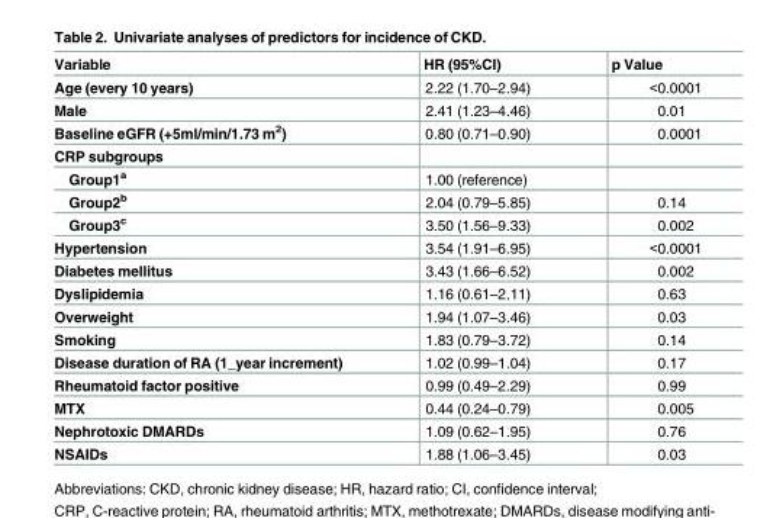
<table><thead><tr><td>Variable</td><td>HR (95%CI)</td><td>p Value</td></tr></thead><tbody><tr><td>Age (every 10 years)</td><td>2.22 (1.70–2.94)</td><td>&lt;0.0001</td></tr><tr><td>Male</td><td>2.41 (1.23–4.46)</td><td>0.01</td></tr><tr><td>Baseline eGFR (+5ml/min/1.73 m<sup>2</sup>)</td><td>0.80 (0.71–0.90)</td><td>0.0001</td></tr><tr><td colspan="3">CRP subgroups</td></tr><tr><td>Group1<sup>a</sup></td><td>1.00 (reference)</td><td></td></tr><tr><td>Group2<sup>b</sup></td><td>2.04 (0.79–5.85)</td><td>0.14</td></tr><tr><td>Group3<sup>c</sup></td><td>3.50 (1.56–9.33)</td><td>0.002</td></tr><tr><td>Hypertension</td><td>3.54 (1.91–6.95)</td><td>&lt;0.0001</td></tr><tr><td>Diabetes mellitus</td><td>3.43 (1.66–6.52)</td><td>0.002</td></tr><tr><td>Dyslipidemia</td><td>1.16 (0.61–2.11)</td><td>0.63</td></tr><tr><td>Overweight</td><td>1.94 (1.07–3.46)</td><td>0.03</td></tr><tr><td>Smoking</td><td>1.83 (0.79–3.72)</td><td>0.14</td></tr><tr><td>Disease duration of RA (1_year increment)</td><td>1.02 (0.99–1.04)</td><td>0.17</td></tr><tr><td>Rheumatoid factor positive</td><td>0.99 (0.49–2.29)</td><td>0.99</td></tr><tr><td>MTX</td><td>0.44 (0.24–0.79)</td><td>0.005</td></tr><tr><td>Nephrotoxic DMARDs</td><td>1.09 (0.62–1.95)</td><td>0.76</td></tr><tr><td>NSAIDs</td><td>1.88 (1.06–3.45)</td><td>0.03</td></tr></tbody></table>